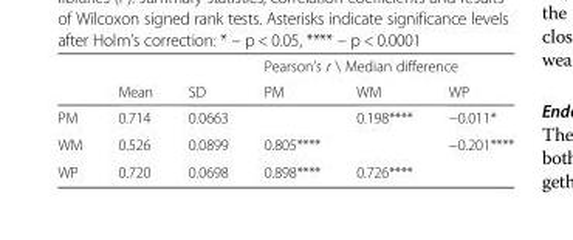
<table><thead><tr><td rowspan="2"></td><td rowspan="2">Mean</td><td rowspan="2">SD</td><td colspan="3">Pearson’s r \ Median difference</td></tr><tr><td>PM</td><td>WM</td><td>WP</td></tr></thead><tbody><tr><td>PM</td><td>0.714</td><td>0.0663</td><td></td><td>0.198****</td><td>−0.011*</td></tr><tr><td>WM</td><td>0.526</td><td>0.0899</td><td>0.805****</td><td></td><td>−0.201****</td></tr><tr><td>WP</td><td>0.720</td><td>0.0698</td><td>0.898****</td><td>0.726****</td><td></td></tr></tbody></table>